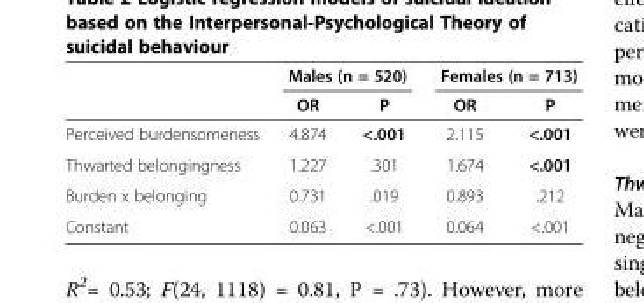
<table><thead><tr><td rowspan="2"></td><td colspan="2">Males (n = 520)</td><td colspan="2">Females (n = 713)</td></tr><tr><td>OR</td><td>P</td><td>OR</td><td>P</td></tr></thead><tbody><tr><td>Perceived burdensomeness</td><td>4.874</td><td>&lt;.001</td><td>2.115</td><td>&lt;.001</td></tr><tr><td>Thwarted belongingness</td><td>1.227</td><td>.301</td><td>1.674</td><td>&lt;.001</td></tr><tr><td>Burden x belonging</td><td>0.731</td><td>.019</td><td>0.893</td><td>.212</td></tr><tr><td>Constant</td><td>0.063</td><td>&lt;.001</td><td>0.064</td><td>&lt;.001</td></tr></tbody></table>